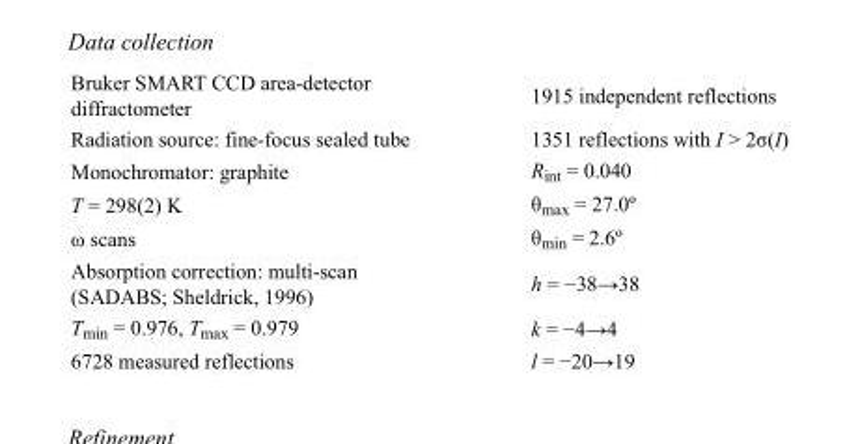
<table><tbody><tr><td>Bruker SMART CCD area-detector diffractometer</td><td>1915 independent reflections</td></tr><tr><td>Radiation source: fine-focus sealed tube</td><td>1351 reflections with I &gt; 2σ(I)</td></tr><tr><td>Monochromator: graphite</td><td>R<sub>int</sub> = 0.040</td></tr><tr><td>T = 298(2) K</td><td>θ<sub>max</sub> = 27.0º</td></tr><tr><td>ω scans</td><td>θ<sub>min</sub> = 2.6º</td></tr><tr><td>Absorption correction: multi-scan (SADABS; Sheldrick, 1996)</td><td>h = −38→38</td></tr><tr><td>T<sub>min</sub> = 0.976, T<sub>max</sub> = 0.979</td><td>k = −4→4</td></tr><tr><td>6728 measured reflections</td><td>l = −20→19</td></tr></tbody></table>